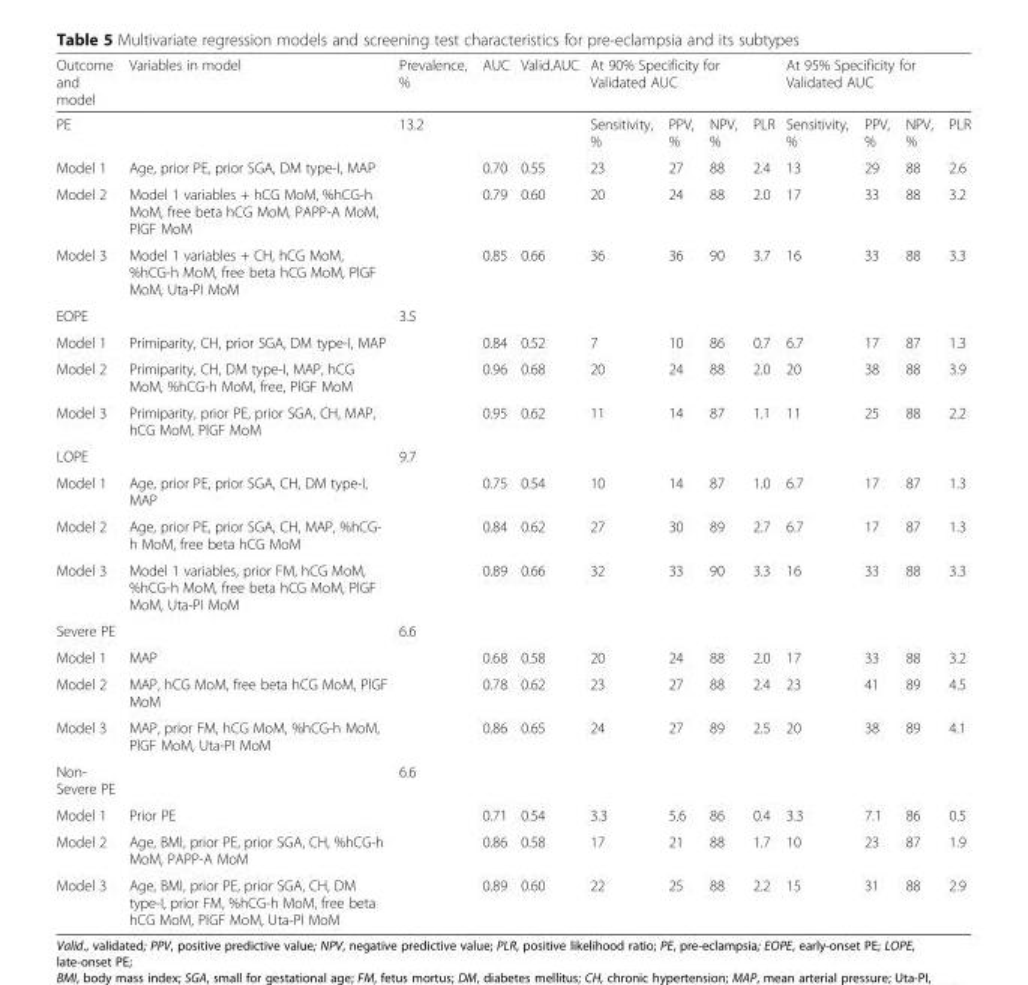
<table><thead><tr><td rowspan="2">Outcome and model PE</td><td rowspan="2">Variables in model</td><td rowspan="2">Prevalence, % 13.2</td><td rowspan="2">AUC</td><td rowspan="2">Valid.AUC</td><td colspan="4">At 90% Specificity for Validated AUC</td><td colspan="4">At 95% Specificity for Validated AUC</td></tr><tr><td>Sensitivity, %</td><td>PPV, %</td><td>NPV, %</td><td>PLR</td><td>Sensitivity, %</td><td>PPV, %</td><td>NPV, %</td><td>PLR</td></tr></thead><tbody><tr><td>Model 1</td><td>Age, prior PE, prior SGA, DM type-I, MAP</td><td></td><td>0.70</td><td>0.55</td><td>23</td><td>27</td><td>88</td><td>2.4</td><td>13</td><td>29</td><td>88</td><td>2.6</td></tr><tr><td>Model 2</td><td>Model 1 variables + hCG MoM, %hCG-h MoM, free beta hCG MoM, PAPP-A MoM, PlGF MoM</td><td></td><td>0.79</td><td>0.60</td><td>20</td><td>24</td><td>88</td><td>2.0</td><td>17</td><td>33</td><td>88</td><td>3.2</td></tr><tr><td>Model 3</td><td>Model 1 variables + CH, hCG MoM, %hCG-h MoM, free beta hCG MoM, PlGF MoM, Uta-PI MoM</td><td></td><td>0.85</td><td>0.66</td><td>36</td><td>36</td><td>90</td><td>3.7</td><td>16</td><td>33</td><td>88</td><td>3.3</td></tr><tr><td>EOPE</td><td></td><td>3.5</td><td></td><td></td><td></td><td></td><td></td><td></td><td></td><td></td><td></td><td></td></tr><tr><td>Model 1</td><td>Primiparity, CH, prior SGA, DM type-I, MAP</td><td></td><td>0.84</td><td>0.52</td><td>7</td><td>10</td><td>86</td><td>0.7</td><td>6.7</td><td>17</td><td>87</td><td>1.3</td></tr><tr><td>Model 2</td><td>Primiparity, CH, DM type-I, MAP, hCG MoM, %hCG-h MoM, free, PlGF MoM</td><td></td><td>0.96</td><td>0.68</td><td>20</td><td>24</td><td>88</td><td>2.0</td><td>20</td><td>38</td><td>88</td><td>3.9</td></tr><tr><td>Model 3</td><td>Primiparity, prior PE, prior SGA, CH, MAP, hCG MoM, PlGF MoM</td><td></td><td>0.95</td><td>0.62</td><td>11</td><td>14</td><td>87</td><td>1.1</td><td>11</td><td>25</td><td>88</td><td>2.2</td></tr><tr><td>LOPE</td><td></td><td>9.7</td><td></td><td></td><td></td><td></td><td></td><td></td><td></td><td></td><td></td><td></td></tr><tr><td>Model 1</td><td>Age, prior PE, prior SGA, CH, DM type-I, MAP</td><td></td><td>0.75</td><td>0.54</td><td>10</td><td>14</td><td>87</td><td>1.0</td><td>6.7</td><td>17</td><td>87</td><td>1.3</td></tr><tr><td>Model 2</td><td>Age, prior PE, prior SGA, CH, MAP, %hCG- h MoM, free beta hCG MoM</td><td></td><td>0.84</td><td>0.62</td><td>27</td><td>30</td><td>89</td><td>2.7</td><td>6.7</td><td>17</td><td>87</td><td>1.3</td></tr><tr><td>Model 3</td><td>Model 1 variables, prior FM, hCG MoM, %hCG-h MoM, free beta hCG MoM, PlGF MoM, Uta-PI MoM</td><td></td><td>0.89</td><td>0.66</td><td>32</td><td>33</td><td>90</td><td>3.3</td><td>16</td><td>33</td><td>88</td><td>3.3</td></tr><tr><td>Severe PE</td><td></td><td>6.6</td><td></td><td></td><td></td><td></td><td></td><td></td><td></td><td></td><td></td><td></td></tr><tr><td>Model 1</td><td>MAP</td><td></td><td>0.68</td><td>0.58</td><td>20</td><td>24</td><td>88</td><td>2.0</td><td>17</td><td>33</td><td>88</td><td>3.2</td></tr><tr><td>Model 2</td><td>MAP, hCG MoM, free beta hCG MoM, PlGF MoM</td><td></td><td>0.78</td><td>0.62</td><td>23</td><td>27</td><td>88</td><td>2.4</td><td>23</td><td>41</td><td>89</td><td>4.5</td></tr><tr><td>Model 3</td><td>MAP, prior FM, hCG MoM, %hCG-h MoM, PlGF MoM, Uta-PI MoM</td><td></td><td>0.86</td><td>0.65</td><td>24</td><td>27</td><td>89</td><td>2.5</td><td>20</td><td>38</td><td>89</td><td>4.1</td></tr><tr><td>Non- Severe PE</td><td></td><td>6.6</td><td></td><td></td><td></td><td></td><td></td><td></td><td></td><td></td><td></td><td></td></tr><tr><td>Model 1</td><td>Prior PE</td><td></td><td>0.71</td><td>0.54</td><td>3.3</td><td>5.6</td><td>86</td><td>0.4</td><td>3.3</td><td>7.1</td><td>86</td><td>0.5</td></tr><tr><td>Model 2</td><td>Age, BMI, prior PE, prior SGA, CH, %hCG-h MoM, PAPP-A MoM</td><td></td><td>0.86</td><td>0.58</td><td>17</td><td>21</td><td>88</td><td>1.7</td><td>10</td><td>23</td><td>87</td><td>1.9</td></tr><tr><td>Model 3</td><td>Age, BMI, prior PE, prior SGA, CH, DM type-I, prior FM, %hCG-h MoM, free beta hCG MoM, PlGF MoM, Uta-PI MoM</td><td></td><td>0.89</td><td>0.60</td><td>22</td><td>25</td><td>88</td><td>2.2</td><td>15</td><td>31</td><td>88</td><td>2.9</td></tr></tbody></table>